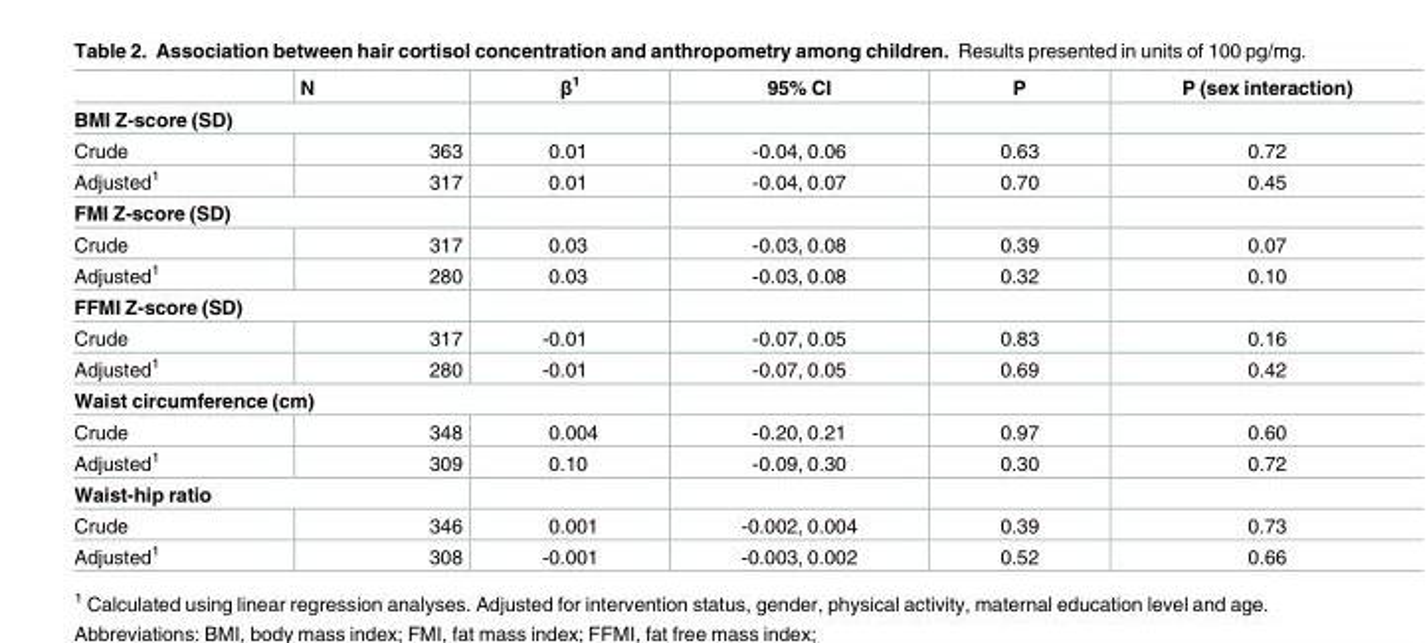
<table><thead><tr><td></td><td>N</td><td>β<sup>1</sup></td><td>95% CI</td><td>P</td><td>P (sex interaction)</td></tr></thead><tbody><tr><td colspan="6">BMI Z-score (SD)</td></tr><tr><td>Crude</td><td>363</td><td>0.01</td><td>-0.04, 0.06</td><td>0.63</td><td>0.72</td></tr><tr><td>Adjusted<sup>1</sup></td><td>317</td><td>0.01</td><td>-0.04, 0.07</td><td>0.70</td><td>0.45</td></tr><tr><td colspan="6">FMI Z-score (SD)</td></tr><tr><td>Crude</td><td>317</td><td>0.03</td><td>-0.03, 0.08</td><td>0.39</td><td>0.07</td></tr><tr><td>Adjusted<sup>1</sup></td><td>280</td><td>0.03</td><td>-0.03, 0.08</td><td>0.32</td><td>0.10</td></tr><tr><td colspan="6">FFMI Z-score (SD)</td></tr><tr><td>Crude</td><td>317</td><td>-0.01</td><td>-0.07, 0.05</td><td>0.83</td><td>0.16</td></tr><tr><td>Adjusted<sup>1</sup></td><td>280</td><td>-0.01</td><td>-0.07, 0.05</td><td>0.69</td><td>0.42</td></tr><tr><td colspan="6">Waist circumference (cm)</td></tr><tr><td>Crude</td><td>348</td><td>0.004</td><td>-0.20, 0.21</td><td>0.97</td><td>0.60</td></tr><tr><td>Adjusted<sup>1</sup></td><td>309</td><td>0.10</td><td>-0.09, 0.30</td><td>0.30</td><td>0.72</td></tr><tr><td colspan="6">Waist-hip ratio</td></tr><tr><td>Crude</td><td>346</td><td>0.001</td><td>-0.002, 0.004</td><td>0.39</td><td>0.73</td></tr><tr><td>Adjusted<sup>1</sup></td><td>308</td><td>-0.001</td><td>-0.003, 0.002</td><td>0.52</td><td>0.66</td></tr></tbody></table>